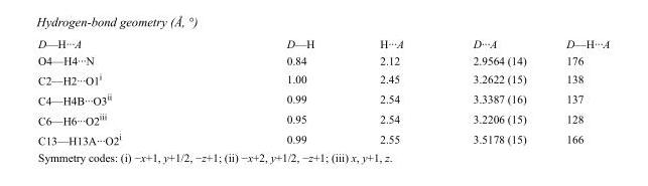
<table><tbody><tr><td>D—H···A</td><td>D—H</td><td>H···A</td><td>D···A</td><td>D—H···A</td></tr><tr><td>O4—H4···N</td><td>0.84</td><td>2.12</td><td>2.9564 (14)</td><td>176</td></tr><tr><td>C2—H2···O1<sup>i</sup></td><td>1.00</td><td>2.45</td><td>3.2622 (15)</td><td>138</td></tr><tr><td>C4—H4B···O3<sup>ii</sup></td><td>0.99</td><td>2.54</td><td>3.3387 (16)</td><td>137</td></tr><tr><td>C6—H6···O2<sup>iii</sup></td><td>0.95</td><td>2.54</td><td>3.2206 (15)</td><td>128</td></tr><tr><td>C13—H13A···O2<sup>i</sup></td><td>0.99</td><td>2.55</td><td>3.5178 (15)</td><td>166</td></tr></tbody></table>